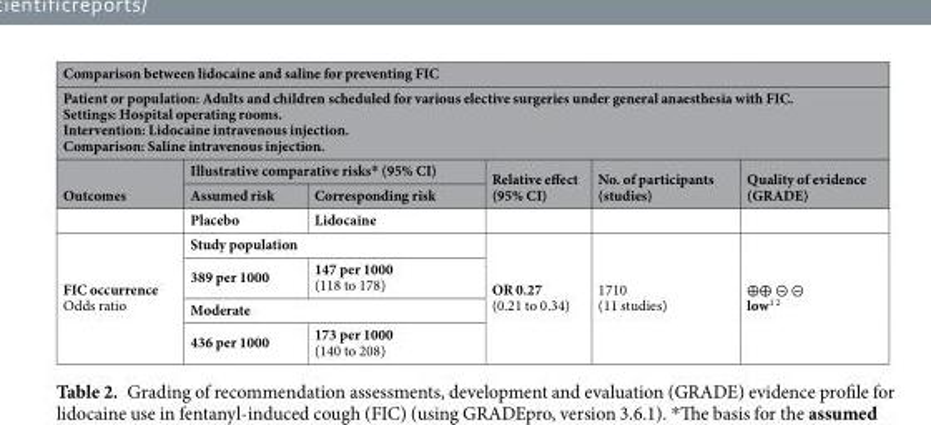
<table><thead><tr><td rowspan="2" colspan="6">Comparison between lidocaine and saline for preventing FIC Patient or population: Adults and children scheduled for various elective surgeries under general anaesthesia with FIC. Settings: Hospital operating rooms. Intervention: Lidocaine intravenous injection. Comparison: Saline intravenous injection.</td></tr><tr></tr><tr><td rowspan="2">Outcomes</td><td colspan="2">Illustrative comparative risks* (95% CI)</td><td rowspan="2">Relative effect (95% CI)</td><td rowspan="2">No. of participants (studies)</td><td rowspan="2">Quality of evidence (GRADE)</td></tr><tr><td>Assumed risk</td><td>Corresponding risk</td></tr></thead><tbody><tr><td></td><td>Placebo</td><td>Lidocaine</td><td></td><td></td><td></td></tr><tr><td rowspan="4">FIC occurrence Odds ratio</td><td colspan="2">Study population</td><td rowspan="4">OR 0.27 (0.21 to 0.34)</td><td rowspan="4">1710 (11 studies)</td><td rowspan="4">⊕⊕ ⊝ ⊝ low<sup>1 2</sup></td></tr><tr><td>389 per 1000</td><td>147 per 1000 (118 to 178)</td></tr><tr><td colspan="2">Moderate</td></tr><tr><td>436 per 1000</td><td>173 per 1000 (140 to 208)</td></tr></tbody></table>